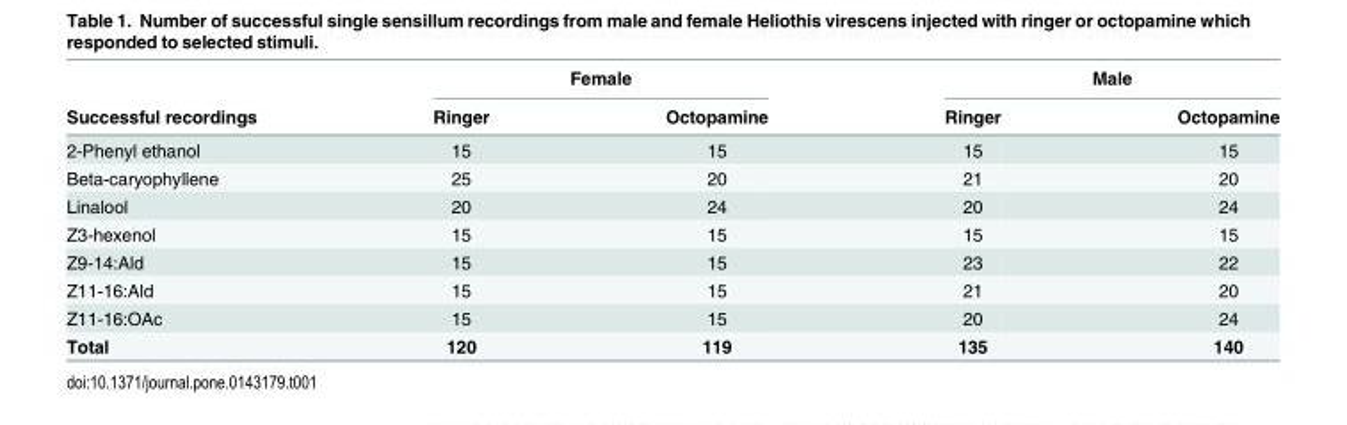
<table><thead><tr><td rowspan="2">Successful recordings</td><td colspan="2">Female</td><td colspan="2">Male</td></tr><tr><td>Ringer</td><td>Octopamine</td><td>Ringer</td><td>Octopamine</td></tr></thead><tbody><tr><td>2-Phenyl ethanol</td><td>15</td><td>15</td><td>15</td><td>15</td></tr><tr><td>Beta-caryophyllene</td><td>25</td><td>20</td><td>21</td><td>20</td></tr><tr><td>Linalool</td><td>20</td><td>24</td><td>20</td><td>24</td></tr><tr><td>Z3-hexenol</td><td>15</td><td>15</td><td>15</td><td>15</td></tr><tr><td>Z9-14:Ald</td><td>15</td><td>15</td><td>23</td><td>22</td></tr><tr><td>Z11-16:Ald</td><td>15</td><td>15</td><td>21</td><td>20</td></tr><tr><td>Z11-16:OAc</td><td>15</td><td>15</td><td>20</td><td>24</td></tr><tr><td>Total</td><td>120</td><td>119</td><td>135</td><td>140</td></tr></tbody></table>